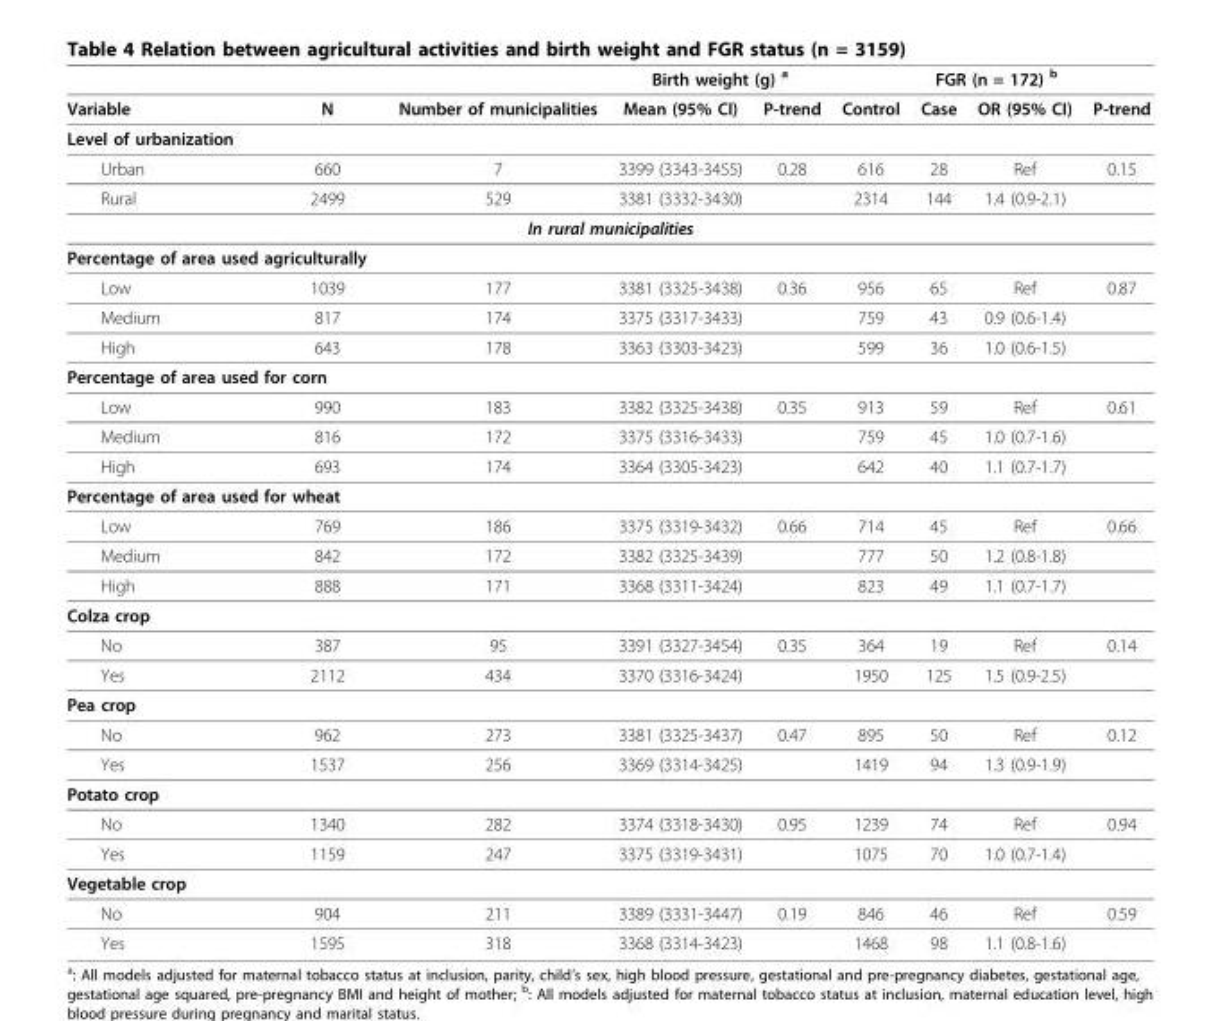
<table><thead><tr><td rowspan="2">Variable</td><td rowspan="2">N</td><td rowspan="2">Number of municipalities</td><td colspan="2">Birth weight (g) <sup>a</sup></td><td colspan="4">FGR (n = 172) <sup>b</sup></td></tr><tr><td>Mean (95% CI)</td><td>P-trend</td><td>Control</td><td>Case</td><td>OR (95% CI)</td><td>P-trend</td></tr></thead><tbody><tr><td colspan="9">Level of urbanization</td></tr><tr><td>Urban</td><td>660</td><td>7</td><td>3399 (3343-3455)</td><td>0.28</td><td>616</td><td>28</td><td>Ref</td><td>0.15</td></tr><tr><td>Rural</td><td>2499</td><td>529</td><td>3381 (3332-3430)</td><td></td><td>2314</td><td>144</td><td>1.4 (0.9-2.1)</td><td></td></tr><tr><td colspan="9">In rural municipalities</td></tr><tr><td colspan="9">Percentage of area used agriculturally</td></tr><tr><td>Low</td><td>1039</td><td>177</td><td>3381 (3325-3438)</td><td>0.36</td><td>956</td><td>65</td><td>Ref</td><td>0.87</td></tr><tr><td>Medium</td><td>817</td><td>174</td><td>3375 (3317-3433)</td><td></td><td>759</td><td>43</td><td>0.9 (0.6-1.4)</td><td></td></tr><tr><td>High</td><td>643</td><td>178</td><td>3363 (3303-3423)</td><td></td><td>599</td><td>36</td><td>1.0 (0.6-1.5)</td><td></td></tr><tr><td colspan="9">Percentage of area used for corn</td></tr><tr><td>Low</td><td>990</td><td>183</td><td>3382 (3325-3438)</td><td>0.35</td><td>913</td><td>59</td><td>Ref</td><td>0.61</td></tr><tr><td>Medium</td><td>816</td><td>172</td><td>3375 (3316-3433)</td><td></td><td>759</td><td>45</td><td>1.0 (0.7-1.6)</td><td></td></tr><tr><td>High</td><td>693</td><td>174</td><td>3364 (3305-3423)</td><td></td><td>642</td><td>40</td><td>1.1 (0.7-1.7)</td><td></td></tr><tr><td colspan="9">Percentage of area used for wheat</td></tr><tr><td>Low</td><td>769</td><td>186</td><td>3375 (3319-3432)</td><td>0.66</td><td>714</td><td>45</td><td>Ref</td><td>0.66</td></tr><tr><td>Medium</td><td>842</td><td>172</td><td>3382 (3325-3439)</td><td></td><td>777</td><td>50</td><td>1.2 (0.8-1.8)</td><td></td></tr><tr><td>High</td><td>888</td><td>171</td><td>3368 (3311-3424)</td><td></td><td>823</td><td>49</td><td>1.1 (0.7-1.7)</td><td></td></tr><tr><td colspan="9">Colza crop</td></tr><tr><td>No</td><td>387</td><td>95</td><td>3391 (3327-3454)</td><td>0.35</td><td>364</td><td>19</td><td>Ref</td><td>0.14</td></tr><tr><td>Yes</td><td>2112</td><td>434</td><td>3370 (3316-3424)</td><td></td><td>1950</td><td>125</td><td>1.5 (0.9-2.5)</td><td></td></tr><tr><td colspan="9">Pea crop</td></tr><tr><td>No</td><td>962</td><td>273</td><td>3381 (3325-3437)</td><td>0.47</td><td>895</td><td>50</td><td>Ref</td><td>0.12</td></tr><tr><td>Yes</td><td>1537</td><td>256</td><td>3369 (3314-3425)</td><td></td><td>1419</td><td>94</td><td>1.3 (0.9-1.9)</td><td></td></tr><tr><td colspan="9">Potato crop</td></tr><tr><td>No</td><td>1340</td><td>282</td><td>3374 (3318-3430)</td><td>0.95</td><td>1239</td><td>74</td><td>Ref</td><td>0.94</td></tr><tr><td>Yes</td><td>1159</td><td>247</td><td>3375 (3319-3431)</td><td></td><td>1075</td><td>70</td><td>1.0 (0.7-1.4)</td><td></td></tr><tr><td colspan="9">Vegetable crop</td></tr><tr><td>No</td><td>904</td><td>211</td><td>3389 (3331-3447)</td><td>0.19</td><td>846</td><td>46</td><td>Ref</td><td>0.59</td></tr><tr><td>Yes</td><td>1595</td><td>318</td><td>3368 (3314-3423)</td><td></td><td>1468</td><td>98</td><td>1.1 (0.8-1.6)</td><td></td></tr></tbody></table>